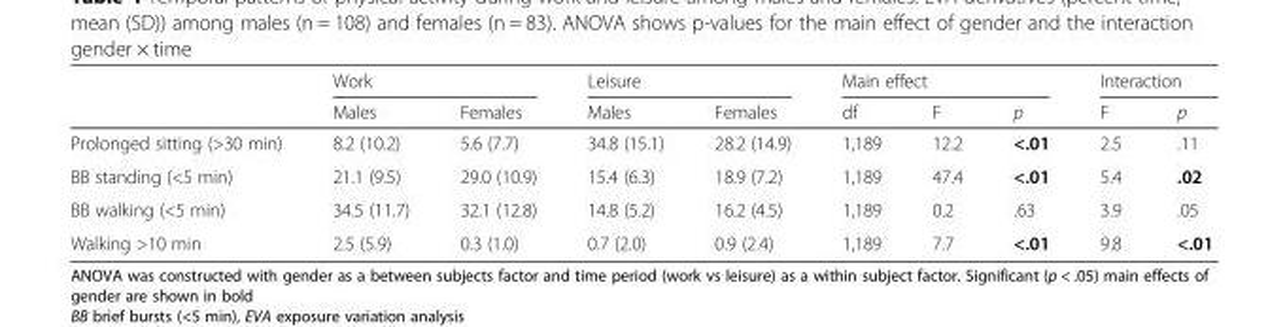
<table><thead><tr><td rowspan="2"></td><td colspan="2">Work</td><td colspan="2">Leisure</td><td colspan="3">Main effect</td><td colspan="2">Interaction</td></tr><tr><td>Males</td><td>Females</td><td>Males</td><td>Females</td><td>df</td><td>F</td><td>p</td><td>F</td><td>p</td></tr></thead><tbody><tr><td>Prolonged sitting (&gt;30 min)</td><td>8.2 (10.2)</td><td>5.6 (7.7)</td><td>34.8 (15.1)</td><td>28.2 (14.9)</td><td>1,189</td><td>12.2</td><td>&lt;.01</td><td>2.5</td><td>.11</td></tr><tr><td>BB standing (&lt;5 min)</td><td>21.1 (9.5)</td><td>29.0 (10.9)</td><td>15.4 (6.3)</td><td>18.9 (7.2)</td><td>1,189</td><td>47.4</td><td>&lt;.01</td><td>5.4</td><td>.02</td></tr><tr><td>BB walking (&lt;5 min)</td><td>34.5 (11.7)</td><td>32.1 (12.8)</td><td>14.8 (5.2)</td><td>16.2 (4.5)</td><td>1,189</td><td>0.2</td><td>.63</td><td>3.9</td><td>.05</td></tr><tr><td>Walking &gt;10 min</td><td>2.5 (5.9)</td><td>0.3 (1.0)</td><td>0.7 (2.0)</td><td>0.9 (2.4)</td><td>1,189</td><td>7.7</td><td>&lt;.01</td><td>9.8</td><td>&lt;.01</td></tr></tbody></table>